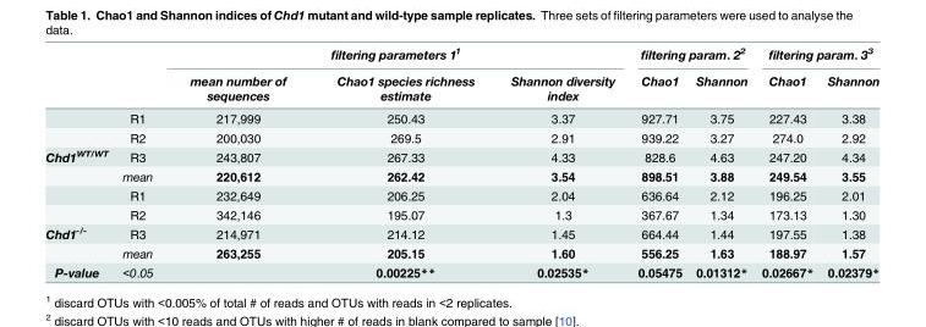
<table><thead><tr><td rowspan="2"></td><td rowspan="2"></td><td colspan="3">filtering parameters 1<sup>1</sup></td><td colspan="2">filtering param. 2<sup>2</sup></td><td colspan="2">filtering param. 3<sup>3</sup></td></tr><tr><td>mean number of sequences</td><td>Chao1 species richness estimate</td><td>Shannon diversity index</td><td>Chao1</td><td>Shannon</td><td>Chao1</td><td>Shannon</td></tr></thead><tbody><tr><td></td><td>R1</td><td>217,999</td><td>250.43</td><td>3.37</td><td>927.71</td><td>3.75</td><td>227.43</td><td>3.38</td></tr><tr><td></td><td>R2</td><td>200,030</td><td>269.5</td><td>2.91</td><td>939.22</td><td>3.27</td><td>274.0</td><td>2.92</td></tr><tr><td rowspan="4">Chd1<sup>WT/WT</sup></td><td>R3</td><td>243,807</td><td>267.33</td><td>4.33</td><td>828.6</td><td>4.63</td><td>247.20</td><td>4.34</td></tr><tr><td>mean</td><td>220,612</td><td>262.42</td><td>3.54</td><td>898.51</td><td>3.88</td><td>249.54</td><td>3.55</td></tr><tr><td>R1</td><td>232,649</td><td>206.25</td><td>2.04</td><td>636.64</td><td>2.12</td><td>196.25</td><td>2.01</td></tr><tr><td>R2</td><td>342,146</td><td>195.07</td><td>1.3</td><td>367.67</td><td>1.34</td><td>173.13</td><td>1.30</td></tr><tr><td rowspan="2">Chd1<sup>-/-</sup></td><td>R3</td><td>214,971</td><td>214.12</td><td>1.45</td><td>664.44</td><td>1.44</td><td>197.55</td><td>1.38</td></tr><tr><td>mean</td><td>263,255</td><td>205.15</td><td>1.60</td><td>556.25</td><td>1.63</td><td>188.97</td><td>1.57</td></tr><tr><td>P-value</td><td>&lt;0.05</td><td></td><td>0.00225**</td><td>0.02535*</td><td>0.05475</td><td>0.01312*</td><td>0.02667*</td><td>0.02379*</td></tr></tbody></table>